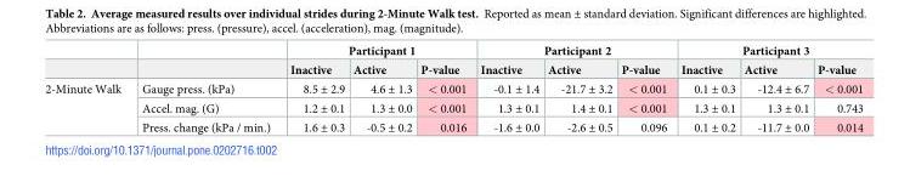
<table><thead><tr><td rowspan="2"></td><td rowspan="2"></td><td colspan="3">Participant 1</td><td colspan="3">Participant 2</td><td colspan="3">Participant 3</td></tr><tr><td>Inactive</td><td>Active</td><td>P-value</td><td>Inactive</td><td>Active</td><td>P-value</td><td>Inactive</td><td>Active</td><td>P-value</td></tr></thead><tbody><tr><td rowspan="3">2-Minute Walk</td><td>Gauge press. (kPa)</td><td>8.5 ± 2.9</td><td>4.6 ± 1.3</td><td>&lt; 0.001</td><td>-0.1 ± 1.4</td><td>-21.7 ± 3.2</td><td>&lt; 0.001</td><td>0.1 ± 0.3</td><td>-12.4 ± 6.7</td><td>&lt; 0.001</td></tr><tr><td>Accel. mag. (G)</td><td>1.2 ± 0.1</td><td>1.3 ± 0.0</td><td>&lt; 0.001</td><td>1.3 ± 0.1</td><td>1.4 ± 0.1</td><td>&lt; 0.001</td><td>1.3 ± 0.1</td><td>1.3 ± 0.1</td><td>0.743</td></tr><tr><td>Press. change (kPa / min.)</td><td>1.6 ± 0.3</td><td>-0.5 ± 0.2</td><td>0.016</td><td>-1.6 ± 0.0</td><td>-2.6 ± 0.5</td><td>0.096</td><td>0.1 ± 0.2</td><td>-11.7 ± 0.0</td><td>0.014</td></tr></tbody></table>